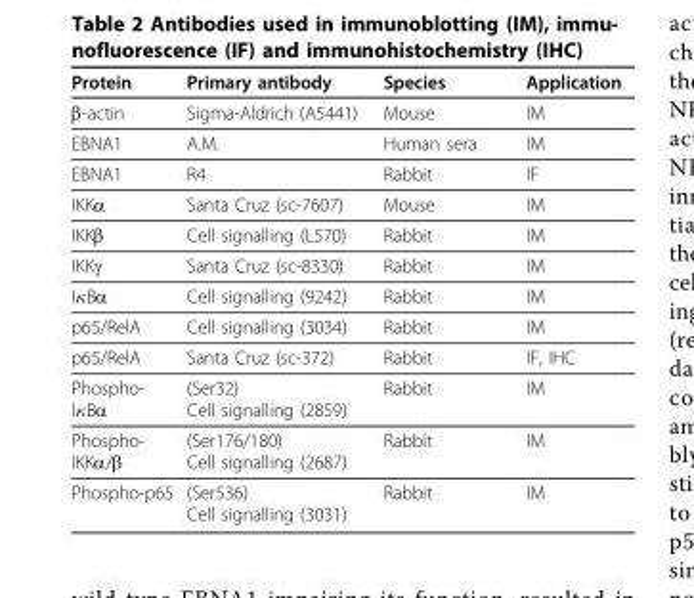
<table><thead><tr><td>Protein</td><td>Primary antibody</td><td>Species</td><td>Application</td></tr></thead><tbody><tr><td>β-actin</td><td>Sigma-Aldrich (A5441)</td><td>Mouse</td><td>IM</td></tr><tr><td>EBNA1</td><td>A.M.</td><td>Human sera</td><td>IM</td></tr><tr><td>EBNA1</td><td>R4</td><td>Rabbit</td><td>IF</td></tr><tr><td>IKKα</td><td>Santa Cruz (sc-7607)</td><td>Mouse</td><td>IM</td></tr><tr><td>IKKβ</td><td>Cell signalling (L570)</td><td>Rabbit</td><td>IM</td></tr><tr><td>IKKγ</td><td>Santa Cruz (sc-8330)</td><td>Rabbit</td><td>IM</td></tr><tr><td>IκBα</td><td>Cell signalling (9242)</td><td>Rabbit</td><td>IM</td></tr><tr><td>p65/RelA</td><td>Cell signalling (3034)</td><td>Rabbit</td><td>IM</td></tr><tr><td>p65/RelA</td><td>Santa Cruz (sc-372)</td><td>Rabbit</td><td>IF, IHC</td></tr><tr><td>Phospho- IκBα</td><td>(Ser32) Cell signalling (2859)</td><td>Rabbit</td><td>IM</td></tr><tr><td>Phospho- IKKα/β</td><td>(Ser176/180) Cell signalling (2687)</td><td>Rabbit</td><td>IM</td></tr><tr><td>Phospho-p65</td><td>(Ser536) Cell signalling (3031)</td><td>Rabbit</td><td>IM</td></tr></tbody></table>